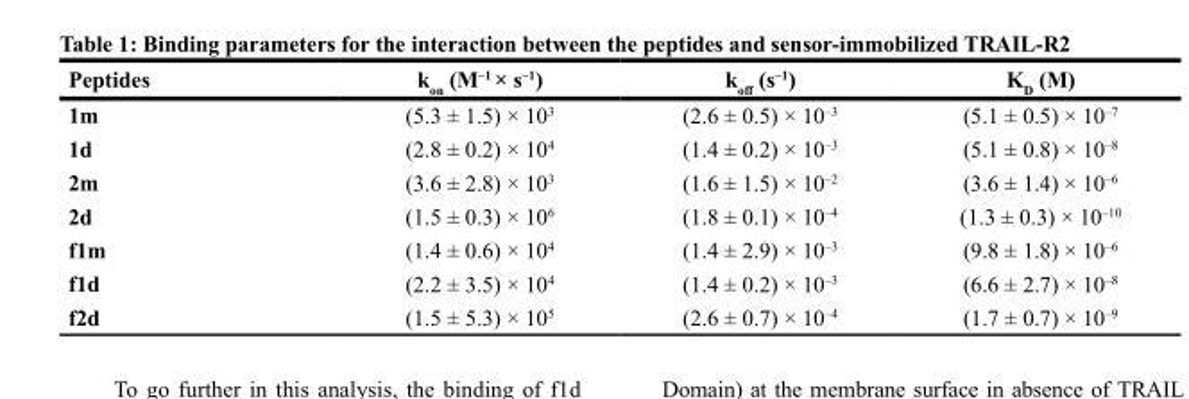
<table><thead><tr><td>Peptides</td><td>k<sub>on</sub> (M<sup>–1</sup> × s<sup>–1</sup>)</td><td>k<sub>off</sub> (s<sup>–1</sup>)</td><td>K<sub>D</sub> (M)</td></tr></thead><tbody><tr><td>1m</td><td>(5.3 ± 1.5) × 10<sup>3</sup></td><td>(2.6 ± 0.5) × 10<sup>–3</sup></td><td>(5.1 ± 0.5) × 10<sup>–7</sup></td></tr><tr><td>1d</td><td>(2.8 ± 0.2) × 10<sup>4</sup></td><td>(1.4 ± 0.2) × 10<sup>–3</sup></td><td>(5.1 ± 0.8) × 10<sup>–8</sup></td></tr><tr><td>2m</td><td>(3.6 ± 2.8) × 10<sup>3</sup></td><td>(1.6 ± 1.5) × 10<sup>–2</sup></td><td>(3.6 ± 1.4) × 10<sup>–6</sup></td></tr><tr><td>2d</td><td>(1.5 ± 0.3) × 10<sup>6</sup></td><td>(1.8 ± 0.1) × 10<sup>–4</sup></td><td>(1.3 ± 0.3) × 10<sup>–10</sup></td></tr><tr><td>f1m</td><td>(1.4 ± 0.6) × 10<sup>4</sup></td><td>(1.4 ± 2.9) × 10<sup>–3</sup></td><td>(9.8 ± 1.8) × 10<sup>–6</sup></td></tr><tr><td>f1d</td><td>(2.2 ± 3.5) × 10<sup>4</sup></td><td>(1.4 ± 0.2) × 10<sup>–3</sup></td><td>(6.6 ± 2.7) × 10<sup>–8</sup></td></tr><tr><td>f2d</td><td>(1.5 ± 5.3) × 10<sup>5</sup></td><td>(2.6 ± 0.7) × 10<sup>–4</sup></td><td>(1.7 ± 0.7) × 10<sup>–9</sup></td></tr></tbody></table>